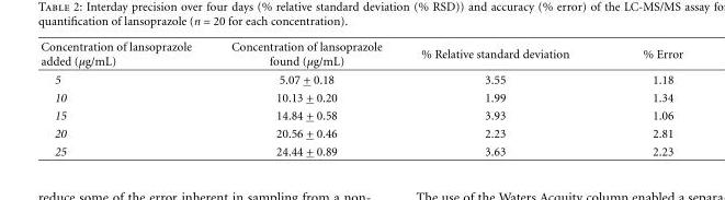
<table><thead><tr><td>Concentration of lansoprazole added (µg/mL)</td><td>Concentration of lansoprazole found (µg/mL)</td><td>% Relative standard deviation</td><td>% Error</td></tr></thead><tbody><tr><td>5</td><td>5.07 + 0.18</td><td>3.55</td><td>1.18</td></tr><tr><td>10</td><td>10.13 + 0.20</td><td>1.99</td><td>1.34</td></tr><tr><td>15</td><td>14.84 + 0.58</td><td>3.93</td><td>1.06</td></tr><tr><td>20</td><td>20.56 + 0.46</td><td>2.23</td><td>2.81</td></tr><tr><td>25</td><td>24.44 + 0.89</td><td>3.63</td><td>2.23</td></tr></tbody></table>